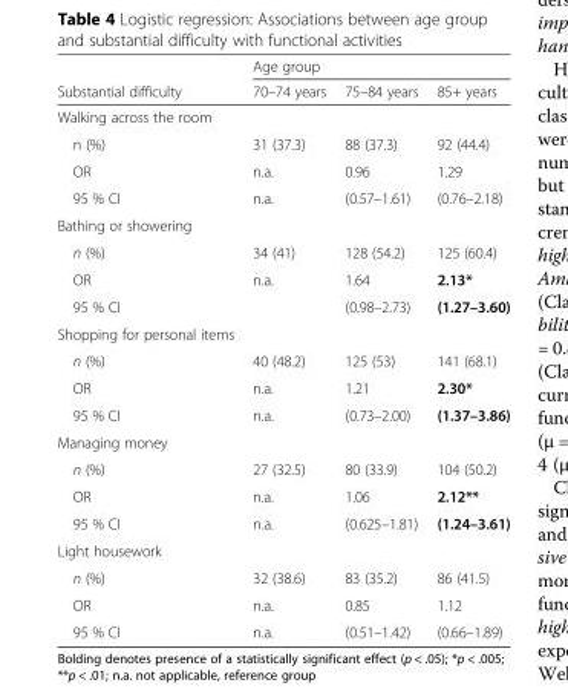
<table><thead><tr><td rowspan="2">Substantial difficulty</td><td colspan="3">Age group</td></tr><tr><td>70–74 years</td><td>75–84 years</td><td>85+ years</td></tr></thead><tbody><tr><td colspan="4">Walking across the room</td></tr><tr><td>n (%)</td><td>31 (37.3)</td><td>88 (37.3)</td><td>92 (44.4)</td></tr><tr><td>OR</td><td>n.a.</td><td>0.96</td><td>1.29</td></tr><tr><td>95 % CI</td><td>n.a.</td><td>(0.57–1.61)</td><td>(0.76–2.18)</td></tr><tr><td colspan="4">Bathing or showering</td></tr><tr><td>n (%)</td><td>34 (41)</td><td>128 (54.2)</td><td>125 (60.4)</td></tr><tr><td>OR</td><td>n.a.</td><td>1.64</td><td>2.13*</td></tr><tr><td>95 % CI</td><td></td><td>(0.98–2.73)</td><td>(1.27–3.60)</td></tr><tr><td colspan="4">Shopping for personal items</td></tr><tr><td>n (%)</td><td>40 (48.2)</td><td>125 (53)</td><td>141 (68.1)</td></tr><tr><td>OR</td><td>n.a.</td><td>1.21</td><td>2.30*</td></tr><tr><td>95 % CI</td><td>n.a.</td><td>(0.73–2.00)</td><td>(1.37–3.86)</td></tr><tr><td colspan="4">Managing money</td></tr><tr><td>n (%)</td><td>27 (32.5)</td><td>80 (33.9)</td><td>104 (50.2)</td></tr><tr><td>OR</td><td>n.a.</td><td>1.06</td><td>2.12**</td></tr><tr><td>95 % CI</td><td>n.a.</td><td>(0.625–1.81)</td><td>(1.24–3.61)</td></tr><tr><td colspan="4">Light housework</td></tr><tr><td>n (%)</td><td>32 (38.6)</td><td>83 (35.2)</td><td>86 (41.5)</td></tr><tr><td>OR</td><td>n.a.</td><td>0.85</td><td>1.12</td></tr><tr><td>95 % CI</td><td>n.a.</td><td>(0.51–1.42)</td><td>(0.66–1.89)</td></tr></tbody></table>